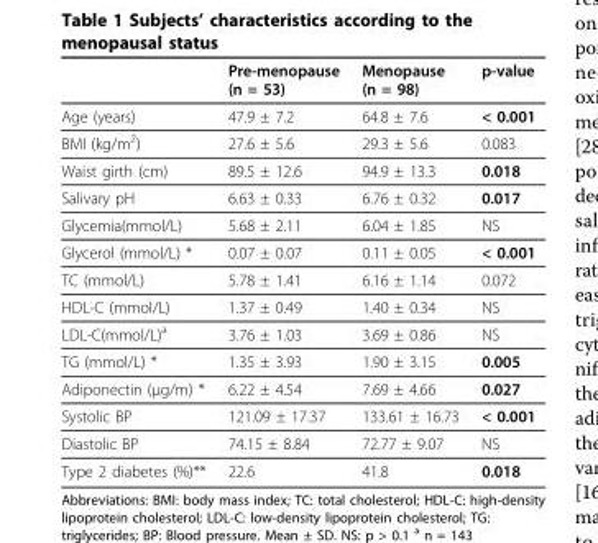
<table><thead><tr><td></td><td>Pre-menopause (n = 53)</td><td>Menopause (n = 98)</td><td>p-value</td></tr></thead><tbody><tr><td>Age (years)</td><td>47.9 ± 7.2</td><td>64.8 ± 7.6</td><td>&lt; 0.001</td></tr><tr><td>BMI (kg/m<sup>2</sup>)</td><td>27.6 ± 5.6</td><td>29.3 ± 5.6</td><td>0.083</td></tr><tr><td>Waist girth (cm)</td><td>89.5 ± 12.6</td><td>94.9 ± 13.3</td><td>0.018</td></tr><tr><td>Salivary pH</td><td>6.63 ± 0.33</td><td>6.76 ± 0.32</td><td>0.017</td></tr><tr><td>Glycemia(mmol/L)</td><td>5.68 ± 2.11</td><td>6.04 ± 1.85</td><td>NS</td></tr><tr><td>Glycerol (mmol/L) *</td><td>0.07 ± 0.07</td><td>0.11 ± 0.05</td><td>&lt; 0.001</td></tr><tr><td>TC (mmol/L)</td><td>5.78 ± 1.41</td><td>6.16 ± 1.14</td><td>0.072</td></tr><tr><td>HDL-C (mmol/L)</td><td>1.37 ± 0.49</td><td>1.40 ± 0.34</td><td>NS</td></tr><tr><td>LDL-C(mmol/L)<sup>a</sup></td><td>3.76 ± 1.03</td><td>3.69 ± 0.86</td><td>NS</td></tr><tr><td>TG (mmol/L) *</td><td>1.35 ± 3.93</td><td>1.90 ± 3.15</td><td>0.005</td></tr><tr><td>Adiponectin (μg/m) *</td><td>6.22 ± 4.54</td><td>7.69 ± 4.66</td><td>0.027</td></tr><tr><td>Systolic BP</td><td>121.09 ± 17.37</td><td>133.61 ± 16.73</td><td>&lt; 0.001</td></tr><tr><td>Diastolic BP</td><td>74.15 ± 8.84</td><td>72.77 ± 9.07</td><td>NS</td></tr><tr><td>Type 2 diabetes (%)**</td><td>22.6</td><td>41.8</td><td>0.018</td></tr></tbody></table>